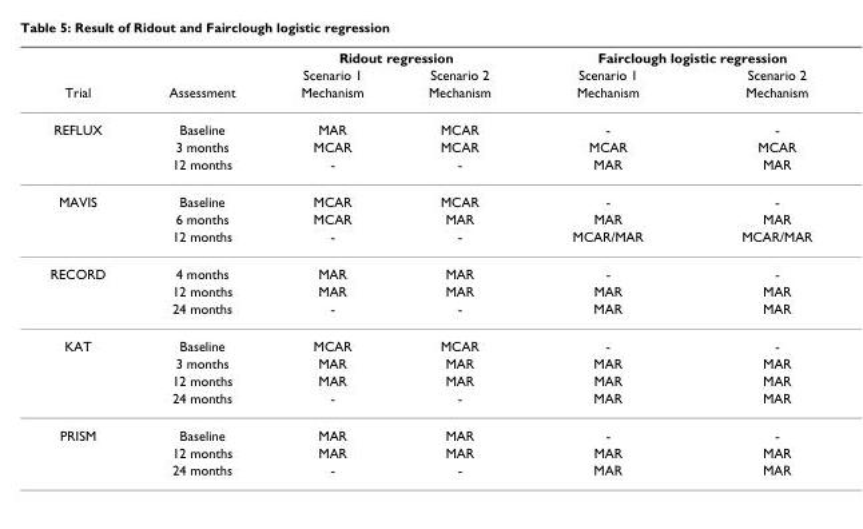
<table><thead><tr><td rowspan="3">Trial</td><td rowspan="3">Assessment</td><td colspan="2">Ridout regression</td><td colspan="2">Fairclough logistic regression</td></tr><tr><td rowspan="2">Scenario 1 Mechanism</td><td rowspan="2">Scenario 2 Mechanism</td><td rowspan="2">Scenario 1 Mechanism</td><td rowspan="2">Scenario 2 Mechanism</td></tr><tr></tr></thead><tbody><tr><td rowspan="3">REFLUX</td><td>Baseline</td><td>MAR</td><td>MCAR</td><td>-</td><td>-</td></tr><tr><td>3 months</td><td>MCAR</td><td>MCAR</td><td>MCAR</td><td>MCAR</td></tr><tr><td>12 months</td><td>-</td><td>-</td><td>MAR</td><td>MAR</td></tr><tr><td rowspan="3">MAVIS</td><td>Baseline</td><td>MCAR</td><td>MCAR</td><td>-</td><td>-</td></tr><tr><td>6 months</td><td>MCAR</td><td>MAR</td><td>MAR</td><td>MAR</td></tr><tr><td>12 months</td><td>-</td><td>-</td><td>MCAR/MAR</td><td>MCAR/MAR</td></tr><tr><td rowspan="3">RECORD</td><td>4 months</td><td>MAR</td><td>MAR</td><td>-</td><td>-</td></tr><tr><td>12 months</td><td>MAR</td><td>MAR</td><td>MAR</td><td>MAR</td></tr><tr><td>24 months</td><td>-</td><td>-</td><td>MAR</td><td>MAR</td></tr><tr><td rowspan="4">KAT</td><td>Baseline</td><td>MCAR</td><td>MCAR</td><td>-</td><td>-</td></tr><tr><td>3 months</td><td>MAR</td><td>MAR</td><td>MAR</td><td>MAR</td></tr><tr><td>12 months</td><td>MAR</td><td>MAR</td><td>MAR</td><td>MAR</td></tr><tr><td>24 months</td><td>-</td><td>-</td><td>MAR</td><td>MAR</td></tr><tr><td rowspan="3">PRISM</td><td>Baseline</td><td>MAR</td><td>MAR</td><td>-</td><td>-</td></tr><tr><td>12 months</td><td>MAR</td><td>MAR</td><td>MAR</td><td>MAR</td></tr><tr><td>24 months</td><td>-</td><td>-</td><td>MAR</td><td>MAR</td></tr></tbody></table>